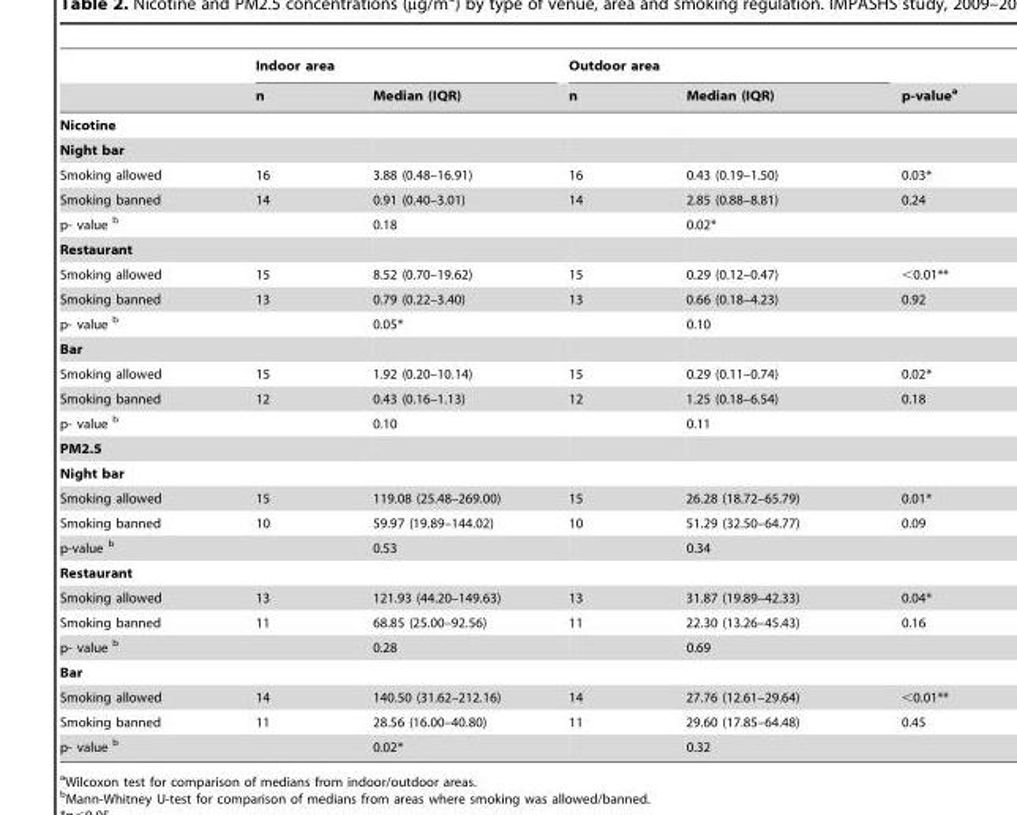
<table><thead><tr><td rowspan="2"></td><td colspan="2">Indoor area</td><td colspan="2">Outdoor area</td><td rowspan="2">p-value<sup>a</sup></td></tr><tr><td>n</td><td>Median (IQR)</td><td>n</td><td>Median (IQR)</td></tr></thead><tbody><tr><td colspan="6">Nicotine</td></tr><tr><td colspan="6">Night bar</td></tr><tr><td>Smoking allowed</td><td>16</td><td>3.88 (0.48–16.91)</td><td>16</td><td>0.43 (0.19–1.50)</td><td>0.03*</td></tr><tr><td>Smoking banned</td><td>14</td><td>0.91 (0.40–3.01)</td><td>14</td><td>2.85 (0.88–8.81)</td><td>0.24</td></tr><tr><td>p- value b</td><td></td><td>0.18</td><td></td><td>0.02*</td><td></td></tr><tr><td colspan="6">Restaurant</td></tr><tr><td>Smoking allowed</td><td>15</td><td>8.52 (0.70–19.62)</td><td>15</td><td>0.29 (0.12–0.47)</td><td>&lt;0.01**</td></tr><tr><td>Smoking banned</td><td>13</td><td>0.79 (0.22–3.40)</td><td>13</td><td>0.66 (0.18–4.23)</td><td>0.92</td></tr><tr><td>p- value b</td><td></td><td>0.05*</td><td></td><td>0.10</td><td></td></tr><tr><td colspan="6">Bar</td></tr><tr><td>Smoking allowed</td><td>15</td><td>1.92 (0.20–10.14)</td><td>15</td><td>0.29 (0.11–0.74)</td><td>0.02*</td></tr><tr><td>Smoking banned</td><td>12</td><td>0.43 (0.16–1.13)</td><td>12</td><td>1.25 (0.18–6.54)</td><td>0.18</td></tr><tr><td>p- value b</td><td></td><td>0.10</td><td></td><td>0.11</td><td></td></tr><tr><td colspan="6">PM2.5</td></tr><tr><td colspan="6">Night bar</td></tr><tr><td>Smoking allowed</td><td>15</td><td>119.08 (25.48–269.00)</td><td>15</td><td>26.28 (18.72–65.79)</td><td>0.01*</td></tr><tr><td>Smoking banned</td><td>10</td><td>59.97 (19.89–144.02)</td><td>10</td><td>51.29 (32.50–64.77)</td><td>0.09</td></tr><tr><td>p-value b</td><td></td><td>0.53</td><td></td><td>0.34</td><td></td></tr><tr><td colspan="6">Restaurant</td></tr><tr><td>Smoking allowed</td><td>13</td><td>121.93 (44.20–149.63)</td><td>13</td><td>31.87 (19.89–42.33)</td><td>0.04*</td></tr><tr><td>Smoking banned</td><td>11</td><td>68.85 (25.00–92.56)</td><td>11</td><td>22.30 (13.26–45.43)</td><td>0.16</td></tr><tr><td>p- value b</td><td></td><td>0.28</td><td></td><td>0.69</td><td></td></tr><tr><td colspan="6">Bar</td></tr><tr><td>Smoking allowed</td><td>14</td><td>140.50 (31.62–212.16)</td><td>14</td><td>27.76 (12.61–29.64)</td><td>&lt;0.01**</td></tr><tr><td>Smoking banned</td><td>11</td><td>28.56 (16.00–40.80)</td><td>11</td><td>29.60 (17.85–64.48)</td><td>0.45</td></tr><tr><td>p- value b</td><td></td><td>0.02*</td><td></td><td>0.32</td><td></td></tr></tbody></table>